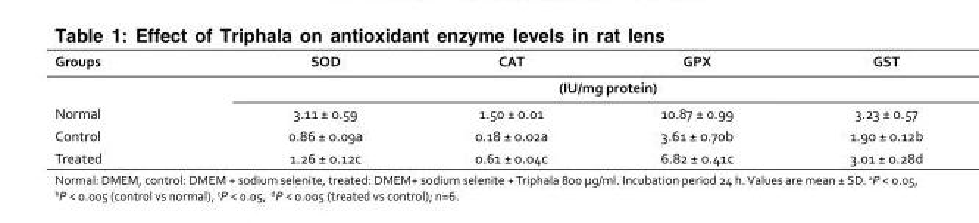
<table><thead><tr><td rowspan="2">Groups</td><td>SOD</td><td>CAT</td><td>GPX</td><td>GST</td></tr><tr><td colspan="4">(IU/mg protein)</td></tr></thead><tbody><tr><td>Normal</td><td>3.11 ± 0.59</td><td>1.50 ± 0.01</td><td>10.87 ± 0.99</td><td>3.23 ± 0.57</td></tr><tr><td>Control</td><td>0.86 ± 0.09<sup>a</sup></td><td>0.18 ± 0.02<sup>a</sup></td><td>3.61 ± 0.70<sup>b</sup></td><td>1.90 ± 0.12<sup>b</sup></td></tr><tr><td>Treated</td><td>1.26 ± 0.12<sup>c</sup></td><td>0.61 ± 0.04<sup>c</sup></td><td>6.82 ± 0.41<sup>c</sup></td><td>3.01 ± 0.28<sup>d</sup></td></tr></tbody></table>